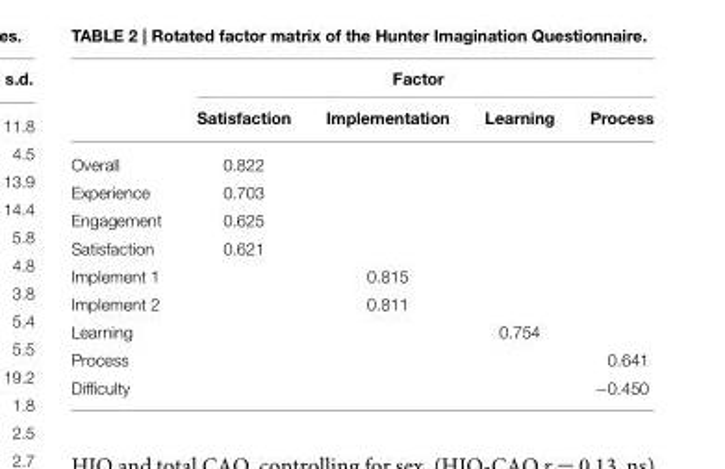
<table><thead><tr><td rowspan="2"></td><td colspan="4">Factor</td></tr><tr><td>Satisfaction</td><td>Implementation</td><td>Learning</td><td>Process</td></tr></thead><tbody><tr><td>Overall</td><td>0.822</td><td></td><td></td><td></td></tr><tr><td>Experience</td><td>0.703</td><td></td><td></td><td></td></tr><tr><td>Engagement</td><td>0.625</td><td></td><td></td><td></td></tr><tr><td>Satisfaction</td><td>0.621</td><td></td><td></td><td></td></tr><tr><td>Implement 1</td><td></td><td>0.815</td><td></td><td></td></tr><tr><td>Implement 2</td><td></td><td>0.811</td><td></td><td></td></tr><tr><td>Learning</td><td></td><td></td><td>0.754</td><td></td></tr><tr><td>Process</td><td></td><td></td><td></td><td>0.641</td></tr><tr><td>Difficulty</td><td></td><td></td><td></td><td>−0.450</td></tr></tbody></table>